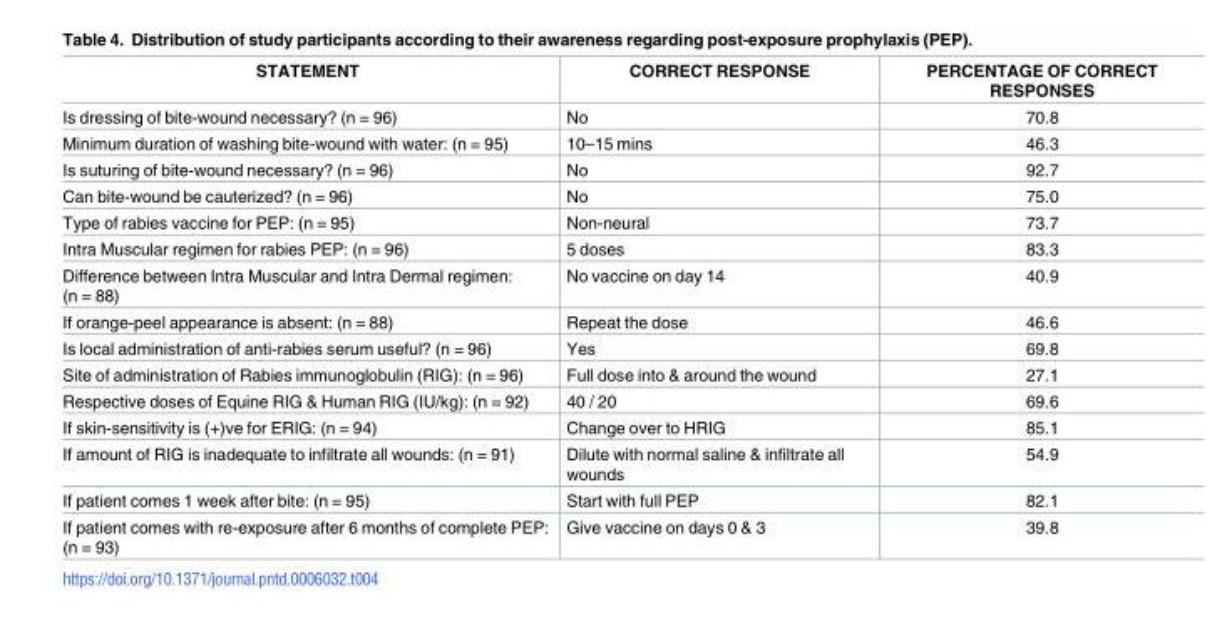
<table><thead><tr><td>STATEMENT</td><td>CORRECT RESPONSE</td><td>PERCENTAGE OF CORRECT RESPONSES</td></tr></thead><tbody><tr><td>Is dressing of bite-wound necessary? (n = 96)</td><td>No</td><td>70.8</td></tr><tr><td>Minimum duration of washing bite-wound with water: (n = 95)</td><td>10–15 mins</td><td>46.3</td></tr><tr><td>Is suturing of bite-wound necessary? (n = 96)</td><td>No</td><td>92.7</td></tr><tr><td>Can bite-wound be cauterized? (n = 96)</td><td>No</td><td>75.0</td></tr><tr><td>Type of rabies vaccine for PEP: (n = 95)</td><td>Non-neural</td><td>73.7</td></tr><tr><td>Intra Muscular regimen for rabies PEP: (n = 96)</td><td>5 doses</td><td>83.3</td></tr><tr><td>Difference between Intra Muscular and Intra Dermal regimen: (n = 88)</td><td>No vaccine on day 14</td><td>40.9</td></tr><tr><td>If orange-peel appearance is absent: (n = 88)</td><td>Repeat the dose</td><td>46.6</td></tr><tr><td>Is local administration of anti-rabies serum useful? (n = 96)</td><td>Yes</td><td>69.8</td></tr><tr><td>Site of administration of Rabies immunoglobulin (RIG): (n = 96)</td><td>Full dose into &amp; around the wound</td><td>27.1</td></tr><tr><td>Respective doses of Equine RIG &amp; Human RIG (IU/kg): (n = 92)</td><td>40 / 20</td><td>69.6</td></tr><tr><td>If skin-sensitivity is (+)ve for ERIG: (n = 94)</td><td>Change over to HRIG</td><td>85.1</td></tr><tr><td>If amount of RIG is inadequate to infiltrate all wounds: (n = 91)</td><td>Dilute with normal saline &amp; infiltrate all wounds</td><td>54.9</td></tr><tr><td>If patient comes 1 week after bite: (n = 95)</td><td>Start with full PEP</td><td>82.1</td></tr><tr><td>If patient comes with re-exposure after 6 months of complete PEP: (n = 93)</td><td>Give vaccine on days 0 &amp; 3</td><td>39.8</td></tr></tbody></table>